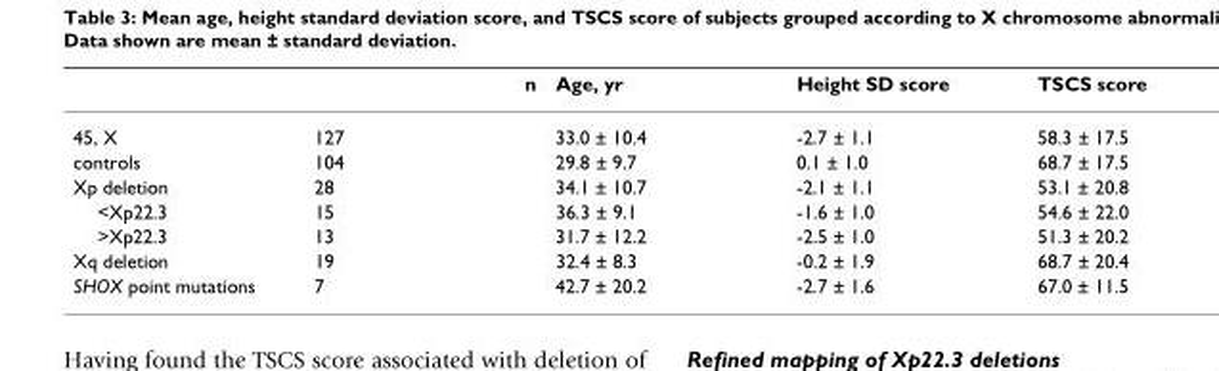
<table><thead><tr><td></td><td>n</td><td>Age, yr</td><td>Height SD score</td><td>TSCS score</td></tr></thead><tbody><tr><td>45, X</td><td>127</td><td>33.0 ± 10.4</td><td>-2.7 ± 1.1</td><td>58.3 ± 17.5</td></tr><tr><td>controls</td><td>104</td><td>29.8 ± 9.7</td><td>0.1 ± 1.0</td><td>68.7 ± 17.5</td></tr><tr><td>Xp deletion</td><td>28</td><td>34.1 ± 10.7</td><td>-2.1 ± 1.1</td><td>53.1 ± 20.8</td></tr><tr><td>&lt;Xp22.3</td><td>15</td><td>36.3 ± 9.1</td><td>-1.6 ± 1.0</td><td>54.6 ± 22.0</td></tr><tr><td>&gt;Xp22.3</td><td>13</td><td>31.7 ± 12.2</td><td>-2.5 ± 1.0</td><td>51.3 ± 20.2</td></tr><tr><td>Xq deletion</td><td>19</td><td>32.4 ± 8.3</td><td>-0.2 ± 1.9</td><td>68.7 ± 20.4</td></tr><tr><td>SHOX point mutations</td><td>7</td><td>42.7 ± 20.2</td><td>-2.7 ± 1.6</td><td>67.0 ± 11.5</td></tr></tbody></table>